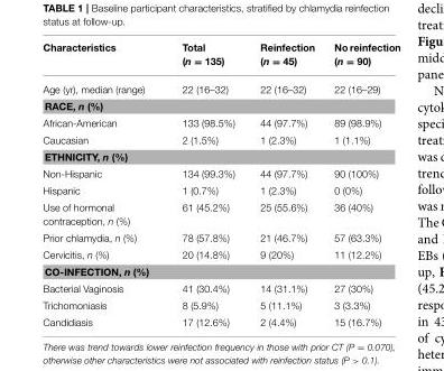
<table><thead><tr><td>Characteristics</td><td>Total (n = 135)</td><td>Reinfection (n = 45)</td><td>No reinfection (n = 90)</td></tr></thead><tbody><tr><td>Age (yr), median (range)</td><td>22 (16–32)</td><td>22 (16–32)</td><td>22 (16–29)</td></tr><tr><td colspan="4">RACE, n (%)</td></tr><tr><td>African-American</td><td>133 (98.5%)</td><td>44 (97.7%)</td><td>89 (98.9%)</td></tr><tr><td>Caucasian</td><td>2 (1.5%)</td><td>1 (2.3%)</td><td>1 (1.1%)</td></tr><tr><td colspan="4">ETHNICITY, n (%)</td></tr><tr><td>Non-Hispanic</td><td>134 (99.3%)</td><td>44 (97.7%)</td><td>90 (100%)</td></tr><tr><td>Hispanic</td><td>1 (0.7%)</td><td>1 (2.3%)</td><td>0 (0%)</td></tr><tr><td>Use of hormonal contraception, n (%)</td><td>61 (45.2%)</td><td>25 (55.6%)</td><td>36 (40%)</td></tr><tr><td>Prior chlamydia, n (%)</td><td>78 (57.8%)</td><td>21 (46.7%)</td><td>57 (63.3%)</td></tr><tr><td>Cervicitis, n (%)</td><td>20 (14.8%)</td><td>9 (20%)</td><td>11 (12.2%)</td></tr><tr><td colspan="4">CO-INFECTION, n (%)</td></tr><tr><td>Bacterial Vaginosis</td><td>41 (30.4%)</td><td>14 (31.1%)</td><td>27 (30%)</td></tr><tr><td>Trichomoniasis</td><td>8 (5.9%)</td><td>5 (11.1%)</td><td>3 (3.3%)</td></tr><tr><td>Candidiasis</td><td>17 (12.6%)</td><td>2 (4.4%)</td><td>15 (16.7%)</td></tr></tbody></table>